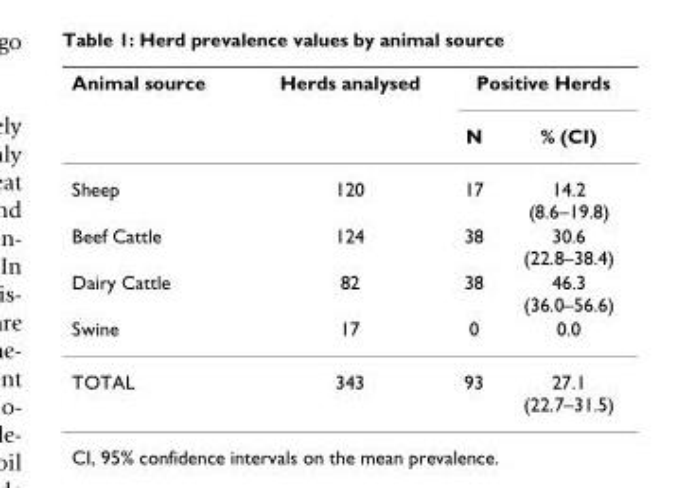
<table><thead><tr><td rowspan="2">Animal source</td><td rowspan="2">Herds analysed</td><td colspan="2">Positive Herds</td></tr><tr><td>N</td><td>% (CI)</td></tr></thead><tbody><tr><td>Sheep</td><td>120</td><td>17</td><td>14.2 (8.6–19.8)</td></tr><tr><td>Beef Cattle</td><td>124</td><td>38</td><td>30.6 (22.8–38.4)</td></tr><tr><td>Dairy Cattle</td><td>82</td><td>38</td><td>46.3 (36.0–56.6)</td></tr><tr><td>Swine</td><td>17</td><td>0</td><td>0.0</td></tr><tr><td>TOTAL</td><td>343</td><td>93</td><td>27.1 (22.7–31.5)</td></tr></tbody></table>